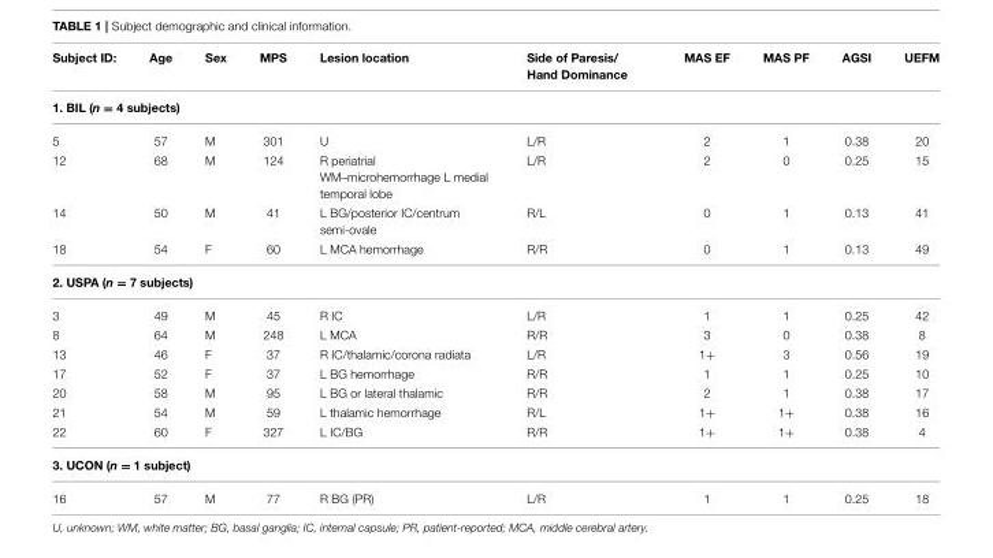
<table><thead><tr><td>Subject ID:</td><td>Age</td><td>Sex</td><td>MPS</td><td>Lesion location</td><td>Side of Paresis/ Hand Dominance</td><td>MAS EF</td><td>MAS PF</td><td>AGSI</td><td>UEFM</td></tr></thead><tbody><tr><td colspan="10">1. BIL (n = 4 subjects)</td></tr><tr><td>5</td><td>57</td><td>M</td><td>301</td><td>U</td><td>L/R</td><td>2</td><td>1</td><td>0.38</td><td>20</td></tr><tr><td>12</td><td>68</td><td>M</td><td>124</td><td>R periatrial WM–microhemorrhage L medial temporal lobe</td><td>L/R</td><td>2</td><td>0</td><td>0.25</td><td>15</td></tr><tr><td>14</td><td>50</td><td>M</td><td>41</td><td>L BG/posterior IC/centrum semi-ovale</td><td>R/L</td><td>0</td><td>1</td><td>0.13</td><td>41</td></tr><tr><td>18</td><td>54</td><td>F</td><td>60</td><td>L MCA hemorrhage</td><td>R/R</td><td>0</td><td>1</td><td>0.13</td><td>49</td></tr><tr><td colspan="10">2. USPA (n = 7 subjects)</td></tr><tr><td>3</td><td>49</td><td>M</td><td>45</td><td>R IC</td><td>L/R</td><td>1</td><td>1</td><td>0.25</td><td>42</td></tr><tr><td>8</td><td>64</td><td>M</td><td>248</td><td>L MCA</td><td>R/R</td><td>3</td><td>0</td><td>0.38</td><td>8</td></tr><tr><td>13</td><td>46</td><td>F</td><td>37</td><td>R IC/thalamic/corona radiata</td><td>L/R</td><td>1+</td><td>3</td><td>0.56</td><td>19</td></tr><tr><td>17</td><td>52</td><td>F</td><td>37</td><td>L BG hemorrhage</td><td>R/R</td><td>1</td><td>1</td><td>0.25</td><td>10</td></tr><tr><td>20</td><td>58</td><td>M</td><td>95</td><td>L BG or lateral thalamic</td><td>R/R</td><td>2</td><td>1</td><td>0.38</td><td>17</td></tr><tr><td>21</td><td>54</td><td>M</td><td>59</td><td>L thalamic hemorrhage</td><td>R/L</td><td>1+</td><td>1+</td><td>0.38</td><td>16</td></tr><tr><td>22</td><td>60</td><td>F</td><td>327</td><td>L IC/BG</td><td>R/R</td><td>1+</td><td>1+</td><td>0.38</td><td>4</td></tr><tr><td colspan="10">3. UCON (n = 1 subject)</td></tr><tr><td>16</td><td>57</td><td>M</td><td>77</td><td>R BG (PR)</td><td>L/R</td><td>1</td><td>1</td><td>0.25</td><td>18</td></tr></tbody></table>